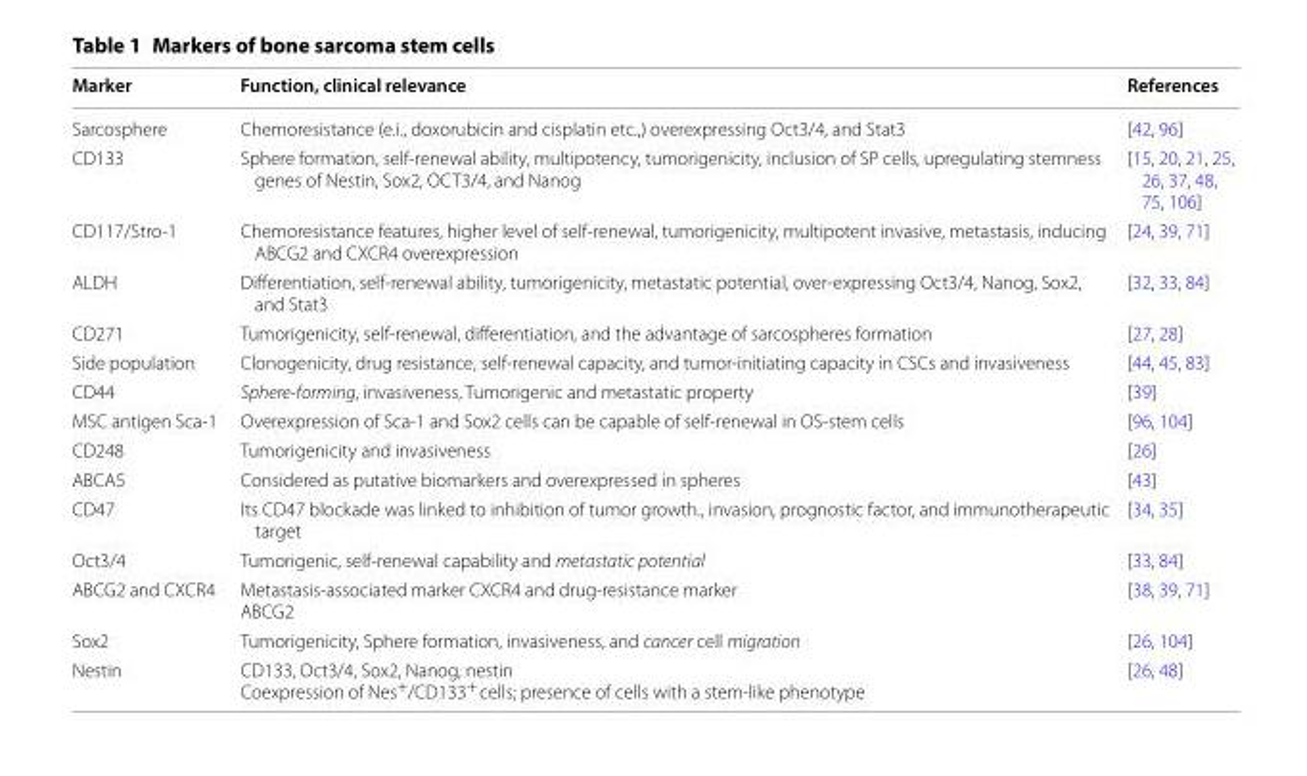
<table><thead><tr><td>Marker</td><td>Function, clinical relevance</td><td>References</td></tr></thead><tbody><tr><td>Sarcosphere</td><td>Chemoresistance (e.i., doxorubicin and cisplatin etc.,) overexpressing Oct3/4, and Stat3</td><td>[42, 96]</td></tr><tr><td>CD133</td><td>Sphere formation, self-renewal ability, multipotency, tumorigenicity, inclusion of SP cells, upregulating stemness genes of Nestin, Sox2, OCT3/4, and Nanog</td><td>[15, 20, 21, 25, 26, 37, 48, 75, 106]</td></tr><tr><td>CD117/Stro-1</td><td>Chemoresistance features, higher level of self-renewal, tumorigenicity, multipotent invasive, metastasis, inducing ABCG2 and CXCR4 overexpression</td><td>[24, 39, 71]</td></tr><tr><td>ALDH</td><td>Differentiation, self-renewal ability, tumorigenicity, metastatic potential, over-expressing Oct3/4, Nanog, Sox2, and Stat3</td><td>[32, 33, 84]</td></tr><tr><td>CD271</td><td>Tumorigenicity, self-renewal, differentiation, and the advantage of sarcospheres formation</td><td>[27, 28]</td></tr><tr><td>Side population</td><td>Clonogenicity, drug resistance, self-renewal capacity, and tumor-initiating capacity in CSCs and invasiveness</td><td>[44, 45, 83]</td></tr><tr><td>CD44</td><td>Sphere-forming, invasiveness, Tumorigenic and metastatic property</td><td>[39]</td></tr><tr><td>MSC antigen Sca-1</td><td>Overexpression of Sca-1 and Sox2 cells can be capable of self-renewal in OS-stem cells</td><td>[96, 104]</td></tr><tr><td>CD248</td><td>Tumorigenicity and invasiveness</td><td>[26]</td></tr><tr><td>ABCA5</td><td>Considered as putative biomarkers and overexpressed in spheres</td><td>[43]</td></tr><tr><td>CD47</td><td>Its CD47 blockade was linked to inhibition of tumor growth., invasion, prognostic factor, and immunotherapeutic target</td><td>[34, 35]</td></tr><tr><td>Oct3/4</td><td>Tumorigenic, self-renewal capability and metastatic potential</td><td>[33, 84]</td></tr><tr><td>ABCG2 and CXCR4</td><td>Metastasis-associated marker CXCR4 and drug-resistance marker ABCG2</td><td>[38, 39, 71]</td></tr><tr><td>Sox2</td><td>Tumorigenicity, Sphere formation, invasiveness, and cancer cell migration</td><td>[26, 104]</td></tr><tr><td>Nestin</td><td>CD133, Oct3/4, Sox2, Nanog, nestin Coexpression of Nes<sup>+</sup>/CD133<sup>+</sup> cells; presence of cells with a stem-like phenotype</td><td>[26, 48]</td></tr></tbody></table>